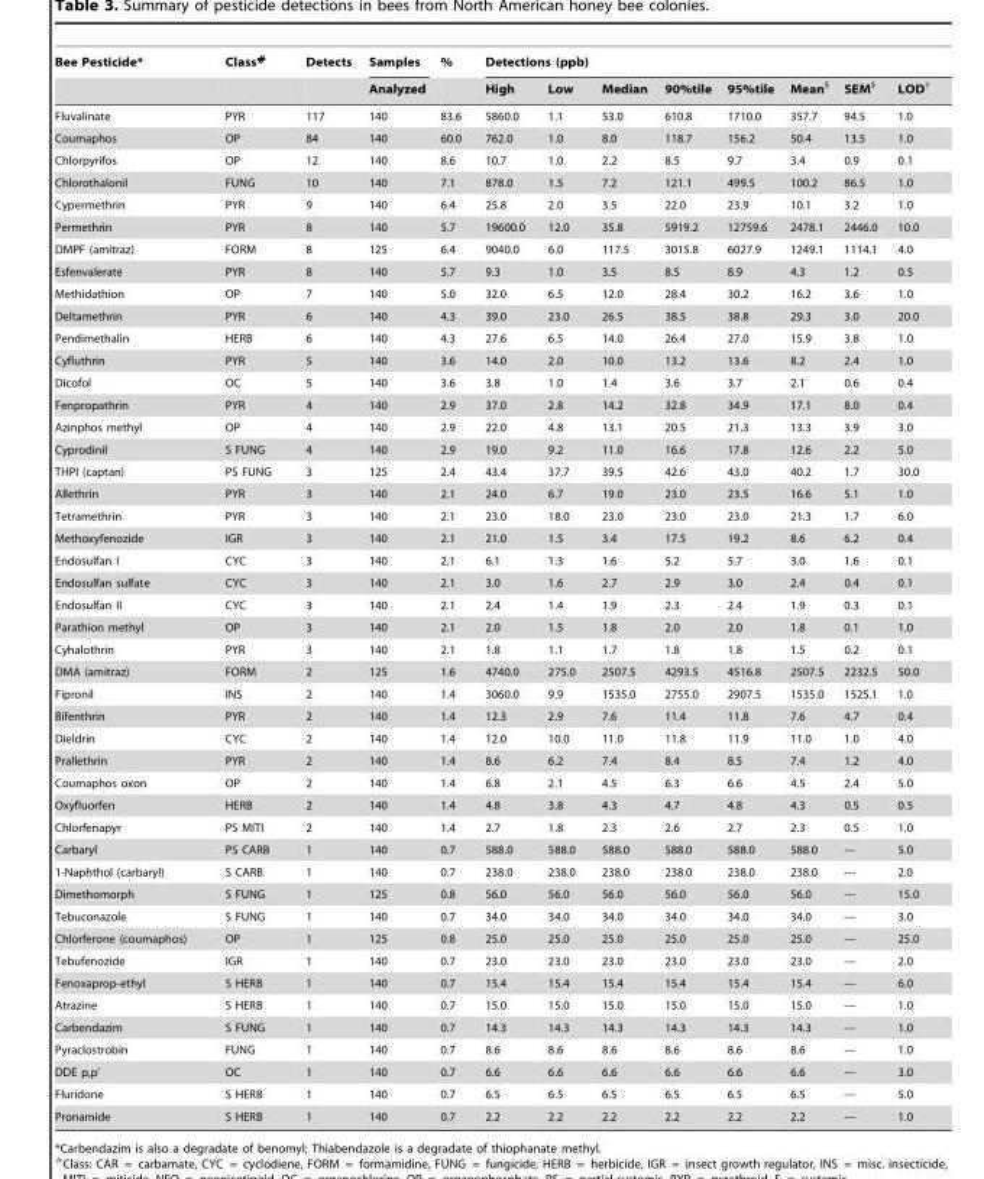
<table><thead><tr><td rowspan="2">Bee Pesticide*</td><td rowspan="2">Class#</td><td rowspan="2">Detects</td><td rowspan="2">Samples Analyzed</td><td rowspan="2">%</td><td colspan="8">Detections (ppb)</td></tr><tr><td>High</td><td>Low</td><td>Median</td><td>90%tile</td><td>95%tile</td><td>Mean§</td><td>SEM§</td><td>LOD†</td></tr></thead><tbody><tr><td>Fluvalinate</td><td>PYR</td><td>117</td><td>140</td><td>83.6</td><td>5860.0</td><td>1.1</td><td>53.0</td><td>610.8</td><td>1710.0</td><td>357.7</td><td>94.5</td><td>1.0</td></tr><tr><td>Coumaphos</td><td>OP</td><td>84</td><td>140</td><td>60.0</td><td>762.0</td><td>1.0</td><td>8.0</td><td>118.7</td><td>156.2</td><td>50.4</td><td>13.5</td><td>1.0</td></tr><tr><td>Chlorpyrifos</td><td>OP</td><td>12</td><td>140</td><td>8.6</td><td>10.7</td><td>1.0</td><td>2.2</td><td>8.5</td><td>9.7</td><td>3.4</td><td>0.9</td><td>0.1</td></tr><tr><td>Chlorothalonil</td><td>FUNG</td><td>10</td><td>140</td><td>7.1</td><td>878.0</td><td>1.5</td><td>7.2</td><td>121.1</td><td>499.5</td><td>100.2</td><td>86.5</td><td>1.0</td></tr><tr><td>Cypermethrin</td><td>PYR</td><td>9</td><td>140</td><td>6.4</td><td>25.8</td><td>2.0</td><td>3.5</td><td>22.0</td><td>23.9</td><td>10.1</td><td>3.2</td><td>1.0</td></tr><tr><td>Permethrin</td><td>PYR</td><td>8</td><td>140</td><td>5.7</td><td>19600.0</td><td>12.0</td><td>35.8</td><td>5919.2</td><td>12759.6</td><td>2478.1</td><td>2446.0</td><td>10.0</td></tr><tr><td>DMPF (amitraz)</td><td>FORM</td><td>8</td><td>125</td><td>6.4</td><td>9040.0</td><td>6.0</td><td>117.5</td><td>3015.8</td><td>6027.9</td><td>1249.1</td><td>1114.1</td><td>4.0</td></tr><tr><td>Esfenvalerate</td><td>PYR</td><td>8</td><td>140</td><td>5.7</td><td>9.3</td><td>1.0</td><td>3.5</td><td>8.5</td><td>8.9</td><td>4.3</td><td>1.2</td><td>0.5</td></tr><tr><td>Methidathion</td><td>OP</td><td>7</td><td>140</td><td>5.0</td><td>32.0</td><td>6.5</td><td>12.0</td><td>28.4</td><td>30.2</td><td>16.2</td><td>3.6</td><td>1.0</td></tr><tr><td>Deltamethrin</td><td>PYR</td><td>6</td><td>140</td><td>4.3</td><td>39.0</td><td>23.0</td><td>26.5</td><td>38.5</td><td>38.8</td><td>29.3</td><td>3.0</td><td>20.0</td></tr><tr><td>Pendimethalin</td><td>HERB</td><td>6</td><td>140</td><td>4.3</td><td>27.6</td><td>6.5</td><td>14.0</td><td>26.4</td><td>27.0</td><td>15.9</td><td>3.8</td><td>1.0</td></tr><tr><td>Cyfluthrin</td><td>PYR</td><td>5</td><td>140</td><td>3.6</td><td>14.0</td><td>2.0</td><td>10.0</td><td>13.2</td><td>13.6</td><td>8.2</td><td>2.4</td><td>1.0</td></tr><tr><td>Dicofol</td><td>OC</td><td>5</td><td>140</td><td>3.6</td><td>3.8</td><td>1.0</td><td>1.4</td><td>3.6</td><td>3.7</td><td>2.1</td><td>0.6</td><td>0.4</td></tr><tr><td>Fenpropathrin</td><td>PYR</td><td>4</td><td>140</td><td>2.9</td><td>37.0</td><td>2.8</td><td>14.2</td><td>32.8</td><td>34.9</td><td>17.1</td><td>8.0</td><td>0.4</td></tr><tr><td>Azinphos methyl</td><td>OP</td><td>4</td><td>140</td><td>2.9</td><td>22.0</td><td>4.8</td><td>13.1</td><td>20.5</td><td>21.3</td><td>13.3</td><td>3.9</td><td>3.0</td></tr><tr><td>Cyprodinil</td><td>S FUNG</td><td>4</td><td>140</td><td>2.9</td><td>19.0</td><td>9.2</td><td>11.0</td><td>16.6</td><td>17.8</td><td>12.6</td><td>2.2</td><td>5.0</td></tr><tr><td>THPI (captan)</td><td>PS FUNG</td><td>3</td><td>125</td><td>2.4</td><td>43.4</td><td>37.7</td><td>39.5</td><td>42.6</td><td>43.0</td><td>40.2</td><td>1.7</td><td>30.0</td></tr><tr><td>Allethrin</td><td>PYR</td><td>3</td><td>140</td><td>2.1</td><td>24.0</td><td>6.7</td><td>19.0</td><td>23.0</td><td>23.5</td><td>16.6</td><td>5.1</td><td>1.0</td></tr><tr><td>Tetramethrin</td><td>PYR</td><td>3</td><td>140</td><td>2.1</td><td>23.0</td><td>18.0</td><td>23.0</td><td>23.0</td><td>23.0</td><td>21.3</td><td>1.7</td><td>6.0</td></tr><tr><td>Methoxyfenozide</td><td>IGR</td><td>3</td><td>140</td><td>2.1</td><td>21.0</td><td>1.5</td><td>3.4</td><td>17.5</td><td>19.2</td><td>8.6</td><td>6.2</td><td>0.4</td></tr><tr><td>Endosulfan I</td><td>CYC</td><td>3</td><td>140</td><td>2.1</td><td>6.1</td><td>1.3</td><td>1.6</td><td>5.2</td><td>5.7</td><td>3.0</td><td>1.6</td><td>0.1</td></tr><tr><td>Endosulfan sulfate</td><td>CYC</td><td>3</td><td>140</td><td>2.1</td><td>3.0</td><td>1.6</td><td>2.7</td><td>2.9</td><td>3.0</td><td>2.4</td><td>0.4</td><td>0.1</td></tr><tr><td>Endosulfan II</td><td>CYC</td><td>3</td><td>140</td><td>2.1</td><td>2.4</td><td>1.4</td><td>1.9</td><td>2.3</td><td>2.4</td><td>1.9</td><td>0.3</td><td>0.1</td></tr><tr><td>Parathion methyl</td><td>OP</td><td>3</td><td>140</td><td>2.1</td><td>2.0</td><td>1.5</td><td>1.8</td><td>2.0</td><td>2.0</td><td>1.8</td><td>0.1</td><td>1.0</td></tr><tr><td>Cyhalothrin</td><td>PYR</td><td>3</td><td>140</td><td>2.1</td><td>1.8</td><td>1.1</td><td>1.7</td><td>1.8</td><td>1.8</td><td>1.5</td><td>0.2</td><td>0.1</td></tr><tr><td>DMA (amitraz)</td><td>FORM</td><td>2</td><td>125</td><td>1.6</td><td>4740.0</td><td>275.0</td><td>2507.5</td><td>4293.5</td><td>4516.8</td><td>2507.5</td><td>2232.5</td><td>50.0</td></tr><tr><td>Fipronil</td><td>INS</td><td>2</td><td>140</td><td>1.4</td><td>3060.0</td><td>9.9</td><td>1535.0</td><td>2755.0</td><td>2907.5</td><td>1535.0</td><td>1525.1</td><td>1.0</td></tr><tr><td>Bifenthrin</td><td>PYR</td><td>2</td><td>140</td><td>1.4</td><td>12.3</td><td>2.9</td><td>7.6</td><td>11.4</td><td>11.8</td><td>7.6</td><td>4.7</td><td>0.4</td></tr><tr><td>Dieldrin</td><td>CYC</td><td>2</td><td>140</td><td>1.4</td><td>12.0</td><td>10.0</td><td>11.0</td><td>11.8</td><td>11.9</td><td>11.0</td><td>1.0</td><td>4.0</td></tr><tr><td>Prallethrin</td><td>PYR</td><td>2</td><td>140</td><td>1.4</td><td>8.6</td><td>6.2</td><td>7.4</td><td>8.4</td><td>8.5</td><td>7.4</td><td>1.2</td><td>4.0</td></tr><tr><td>Coumaphos oxon</td><td>OP</td><td>2</td><td>140</td><td>1.4</td><td>6.8</td><td>2.1</td><td>4.5</td><td>6.3</td><td>6.6</td><td>4.5</td><td>2.4</td><td>5.0</td></tr><tr><td>Oxyfluorfen</td><td>HERB</td><td>2</td><td>140</td><td>1.4</td><td>4.8</td><td>3.8</td><td>4.3</td><td>4.7</td><td>4.8</td><td>4.3</td><td>0.5</td><td>0.5</td></tr><tr><td>Chlorfenapyr</td><td>PS MITI</td><td>2</td><td>140</td><td>1.4</td><td>2.7</td><td>1.8</td><td>2.3</td><td>2.6</td><td>2.7</td><td>2.3</td><td>0.5</td><td>1.0</td></tr><tr><td>Carbaryl</td><td>PS CARB</td><td>1</td><td>140</td><td>0.7</td><td>588.0</td><td>588.0</td><td>588.0</td><td>588.0</td><td>588.0</td><td>588.0</td><td>---</td><td>5.0</td></tr><tr><td>1-Naphthol (carbaryl)</td><td>S CARB</td><td>1</td><td>140</td><td>0.7</td><td>238.0</td><td>238.0</td><td>238.0</td><td>238.0</td><td>238.0</td><td>238.0</td><td>---</td><td>2.0</td></tr><tr><td>Dimethomorph</td><td>S FUNG</td><td>1</td><td>125</td><td>0.8</td><td>56.0</td><td>56.0</td><td>56.0</td><td>56.0</td><td>56.0</td><td>56.0</td><td>---</td><td>15.0</td></tr><tr><td>Tebuconazole</td><td>S FUNG</td><td>1</td><td>140</td><td>0.7</td><td>34.0</td><td>34.0</td><td>34.0</td><td>34.0</td><td>34.0</td><td>34.0</td><td>---</td><td>3.0</td></tr><tr><td>Chlorferone (coumaphos)</td><td>OP</td><td>1</td><td>125</td><td>0.8</td><td>25.0</td><td>25.0</td><td>25.0</td><td>25.0</td><td>25.0</td><td>25.0</td><td>---</td><td>25.0</td></tr><tr><td>Tebufenozide</td><td>IGR</td><td>1</td><td>140</td><td>0.7</td><td>23.0</td><td>23.0</td><td>23.0</td><td>23.0</td><td>23.0</td><td>23.0</td><td>---</td><td>2.0</td></tr><tr><td>Fenoxaprop-ethyl</td><td>S HERB</td><td>1</td><td>140</td><td>0.7</td><td>15.4</td><td>15.4</td><td>15.4</td><td>15.4</td><td>15.4</td><td>15.4</td><td>---</td><td>6.0</td></tr><tr><td>Atrazine</td><td>S HERB</td><td>1</td><td>140</td><td>0.7</td><td>15.0</td><td>15.0</td><td>15.0</td><td>15.0</td><td>15.0</td><td>15.0</td><td>---</td><td>1.0</td></tr><tr><td>Carbendazim</td><td>S FUNG</td><td>1</td><td>140</td><td>0.7</td><td>14.3</td><td>14.3</td><td>14.3</td><td>14.3</td><td>14.3</td><td>14.3</td><td>---</td><td>1.0</td></tr><tr><td>Pyraclostrobin</td><td>FUNG</td><td>1</td><td>140</td><td>0.7</td><td>8.6</td><td>8.6</td><td>8.6</td><td>8.6</td><td>8.6</td><td>8.6</td><td>---</td><td>1.0</td></tr><tr><td>DDE p,p’</td><td>OC</td><td>1</td><td>140</td><td>0.7</td><td>6.6</td><td>6.6</td><td>6.6</td><td>6.6</td><td>6.6</td><td>6.6</td><td>---</td><td>3.0</td></tr><tr><td>Fluridone</td><td>S HERB</td><td>1</td><td>140</td><td>0.7</td><td>6.5</td><td>6.5</td><td>6.5</td><td>6.5</td><td>6.5</td><td>6.5</td><td>---</td><td>5.0</td></tr><tr><td>Pronamide</td><td>S HERB</td><td>1</td><td>140</td><td>0.7</td><td>2.2</td><td>2.2</td><td>2.2</td><td>2.2</td><td>2.2</td><td>2.2</td><td>---</td><td>1.0</td></tr></tbody></table>